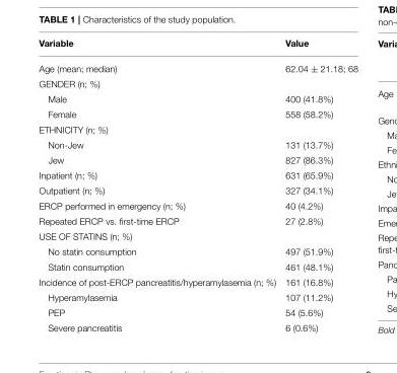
<table><thead><tr><td>Variable</td><td>Value</td></tr></thead><tbody><tr><td>Age (mean; median)</td><td>62.04 ± 21.18; 68</td></tr><tr><td colspan="2">GENDER (n; %)</td></tr><tr><td>Male</td><td>400 (41.8%)</td></tr><tr><td>Female</td><td>558 (58.2%)</td></tr><tr><td colspan="2">ETHNICITY (n; %)</td></tr><tr><td>Non-Jew</td><td>131 (13.7%)</td></tr><tr><td>Jew</td><td>827 (86.3%)</td></tr><tr><td>Inpatient (n; %)</td><td>631 (65.9%)</td></tr><tr><td>Outpatient (n; %)</td><td>327 (34.1%)</td></tr><tr><td>ERCP performed in emergency (n; %)</td><td>40 (4.2%)</td></tr><tr><td>Repeated ERCP vs. first-time ERCP</td><td>27 (2.8%)</td></tr><tr><td colspan="2">USE OF STATINS (n; %)</td></tr><tr><td>No statin consumption</td><td>497 (51.9%)</td></tr><tr><td>Statin consumption</td><td>461 (48.1%)</td></tr><tr><td>Incidence of post-ERCP pancreatitis/hyperamylasemia (n; %)</td><td>161 (16.8%)</td></tr><tr><td>Hyperamylasemia</td><td>107 (11.2%)</td></tr><tr><td>PEP</td><td>54 (5.6%)</td></tr><tr><td>Severe pancreatitis</td><td>6 (0.6%)</td></tr></tbody></table>